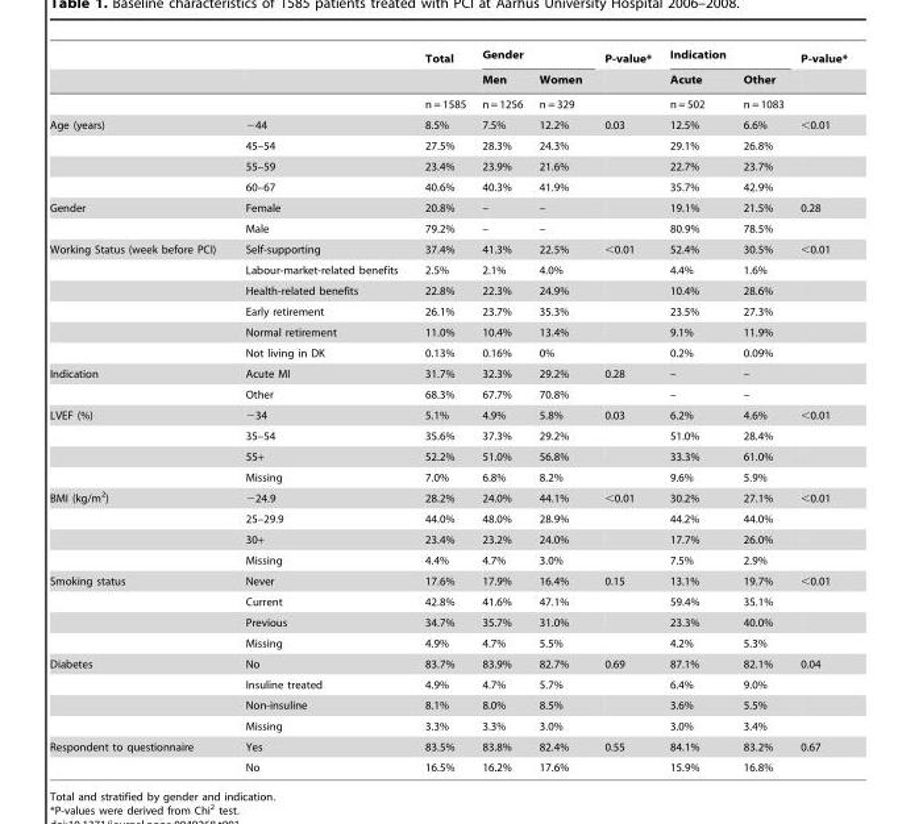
<table><thead><tr><td rowspan="2"></td><td rowspan="2"></td><td rowspan="2">Total</td><td colspan="2">Gender</td><td rowspan="2">P-value*</td><td colspan="2">Indication</td><td rowspan="2">P-value*</td></tr><tr><td>Men</td><td>Women</td><td>Acute</td><td>Other</td></tr></thead><tbody><tr><td></td><td></td><td>n = 1585</td><td>n = 1256</td><td>n = 329</td><td></td><td>n = 502</td><td>n = 1083</td><td></td></tr><tr><td rowspan="4">Age (years)</td><td>−44</td><td>8.5%</td><td>7.5%</td><td>12.2%</td><td>0.03</td><td>12.5%</td><td>6.6%</td><td>&lt;0.01</td></tr><tr><td>45–54</td><td>27.5%</td><td>28.3%</td><td>24.3%</td><td></td><td>29.1%</td><td>26.8%</td><td></td></tr><tr><td>55–59</td><td>23.4%</td><td>23.9%</td><td>21.6%</td><td></td><td>22.7%</td><td>23.7%</td><td></td></tr><tr><td>60–67</td><td>40.6%</td><td>40.3%</td><td>41.9%</td><td></td><td>35.7%</td><td>42.9%</td><td></td></tr><tr><td rowspan="2">Gender</td><td>Female</td><td>20.8%</td><td>–</td><td>–</td><td></td><td>19.1%</td><td>21.5%</td><td>0.28</td></tr><tr><td>Male</td><td>79.2%</td><td>–</td><td>–</td><td></td><td>80.9%</td><td>78.5%</td><td></td></tr><tr><td rowspan="6">Working Status (week before PCI)</td><td>Self-supporting</td><td>37.4%</td><td>41.3%</td><td>22.5%</td><td>&lt;0.01</td><td>52.4%</td><td>30.5%</td><td>&lt;0.01</td></tr><tr><td>Labour-market-related benefits</td><td>2.5%</td><td>2.1%</td><td>4.0%</td><td></td><td>4.4%</td><td>1.6%</td><td></td></tr><tr><td>Health-related benefits</td><td>22.8%</td><td>22.3%</td><td>24.9%</td><td></td><td>10.4%</td><td>28.6%</td><td></td></tr><tr><td>Early retirement</td><td>26.1%</td><td>23.7%</td><td>35.3%</td><td></td><td>23.5%</td><td>27.3%</td><td></td></tr><tr><td>Normal retirement</td><td>11.0%</td><td>10.4%</td><td>13.4%</td><td></td><td>9.1%</td><td>11.9%</td><td></td></tr><tr><td>Not living in DK</td><td>0.13%</td><td>0.16%</td><td>0%</td><td></td><td>0.2%</td><td>0.09%</td><td></td></tr><tr><td rowspan="2">Indication</td><td>Acute MI</td><td>31.7%</td><td>32.3%</td><td>29.2%</td><td>0.28</td><td>–</td><td>–</td><td></td></tr><tr><td>Other</td><td>68.3%</td><td>67.7%</td><td>70.8%</td><td></td><td>–</td><td>–</td><td></td></tr><tr><td rowspan="4">LVEF (%)</td><td>−34</td><td>5.1%</td><td>4.9%</td><td>5.8%</td><td>0.03</td><td>6.2%</td><td>4.6%</td><td>&lt;0.01</td></tr><tr><td>35–54</td><td>35.6%</td><td>37.3%</td><td>29.2%</td><td></td><td>51.0%</td><td>28.4%</td><td></td></tr><tr><td>55+</td><td>52.2%</td><td>51.0%</td><td>56.8%</td><td></td><td>33.3%</td><td>61.0%</td><td></td></tr><tr><td>Missing</td><td>7.0%</td><td>6.8%</td><td>8.2%</td><td></td><td>9.6%</td><td>5.9%</td><td></td></tr><tr><td rowspan="4">BMI (kg/m<sup>2</sup>)</td><td>−24.9</td><td>28.2%</td><td>24.0%</td><td>44.1%</td><td>&lt;0.01</td><td>30.2%</td><td>27.1%</td><td>&lt;0.01</td></tr><tr><td>25–29.9</td><td>44.0%</td><td>48.0%</td><td>28.9%</td><td></td><td>44.2%</td><td>44.0%</td><td></td></tr><tr><td>30+</td><td>23.4%</td><td>23.2%</td><td>24.0%</td><td></td><td>17.7%</td><td>26.0%</td><td></td></tr><tr><td>Missing</td><td>4.4%</td><td>4.7%</td><td>3.0%</td><td></td><td>7.5%</td><td>2.9%</td><td></td></tr><tr><td rowspan="4">Smoking status</td><td>Never</td><td>17.6%</td><td>17.9%</td><td>16.4%</td><td>0.15</td><td>13.1%</td><td>19.7%</td><td>&lt;0.01</td></tr><tr><td>Current</td><td>42.8%</td><td>41.6%</td><td>47.1%</td><td></td><td>59.4%</td><td>35.1%</td><td></td></tr><tr><td>Previous</td><td>34.7%</td><td>35.7%</td><td>31.0%</td><td></td><td>23.3%</td><td>40.0%</td><td></td></tr><tr><td>Missing</td><td>4.9%</td><td>4.7%</td><td>5.5%</td><td></td><td>4.2%</td><td>5.3%</td><td></td></tr><tr><td rowspan="4">Diabetes</td><td>No</td><td>83.7%</td><td>83.9%</td><td>82.7%</td><td>0.69</td><td>87.1%</td><td>82.1%</td><td>0.04</td></tr><tr><td>Insuline treated</td><td>4.9%</td><td>4.7%</td><td>5.7%</td><td></td><td>6.4%</td><td>9.0%</td><td></td></tr><tr><td>Non-insuline</td><td>8.1%</td><td>8.0%</td><td>8.5%</td><td></td><td>3.6%</td><td>5.5%</td><td></td></tr><tr><td>Missing</td><td>3.3%</td><td>3.3%</td><td>3.0%</td><td></td><td>3.0%</td><td>3.4%</td><td></td></tr><tr><td rowspan="2">Respondent to questionnaire</td><td>Yes</td><td>83.5%</td><td>83.8%</td><td>82.4%</td><td>0.55</td><td>84.1%</td><td>83.2%</td><td>0.67</td></tr><tr><td>No</td><td>16.5%</td><td>16.2%</td><td>17.6%</td><td></td><td>15.9%</td><td>16.8%</td><td></td></tr></tbody></table>